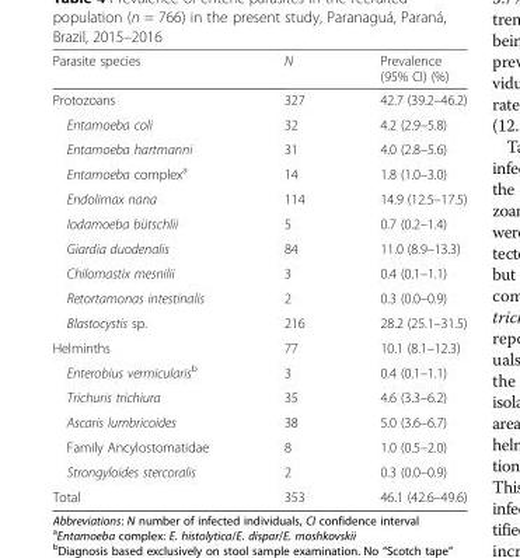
<table><thead><tr><td>Parasite species</td><td>N</td><td>Prevalence (95% CI) (%)</td></tr></thead><tbody><tr><td>Protozoans</td><td>327</td><td>42.7 (39.2–46.2)</td></tr><tr><td>Entamoeba coli</td><td>32</td><td>4.2 (2.9–5.8)</td></tr><tr><td>Entamoeba hartmanni</td><td>31</td><td>4.0 (2.8–5.6)</td></tr><tr><td>Entamoeba complex<sup>a</sup></td><td>14</td><td>1.8 (1.0–3.0)</td></tr><tr><td>Endolimax nana</td><td>114</td><td>14.9 (12.5–17.5)</td></tr><tr><td>Iodamoeba bütschlii</td><td>5</td><td>0.7 (0.2–1.4)</td></tr><tr><td>Giardia duodenalis</td><td>84</td><td>11.0 (8.9–13.3)</td></tr><tr><td>Chilomastix mesnilii</td><td>3</td><td>0.4 (0.1–1.1)</td></tr><tr><td>Retortamonas intestinalis</td><td>2</td><td>0.3 (0.0–0.9)</td></tr><tr><td>Blastocystis sp.</td><td>216</td><td>28.2 (25.1–31.5)</td></tr><tr><td>Helminths</td><td>77</td><td>10.1 (8.1–12.3)</td></tr><tr><td>Enterobius vermicularis<sup>b</sup></td><td>3</td><td>0.4 (0.1–1.1)</td></tr><tr><td>Trichuris trichiura</td><td>35</td><td>4.6 (3.3–6.2)</td></tr><tr><td>Ascaris lumbricoides</td><td>38</td><td>5.0 (3.6–6.7)</td></tr><tr><td>Family Ancylostomatidae</td><td>8</td><td>1.0 (0.5–2.0)</td></tr><tr><td>Strongyloides stercoralis</td><td>2</td><td>0.3 (0.0–0.9)</td></tr><tr><td>Total</td><td>353</td><td>46.1 (42.6–49.6)</td></tr></tbody></table>